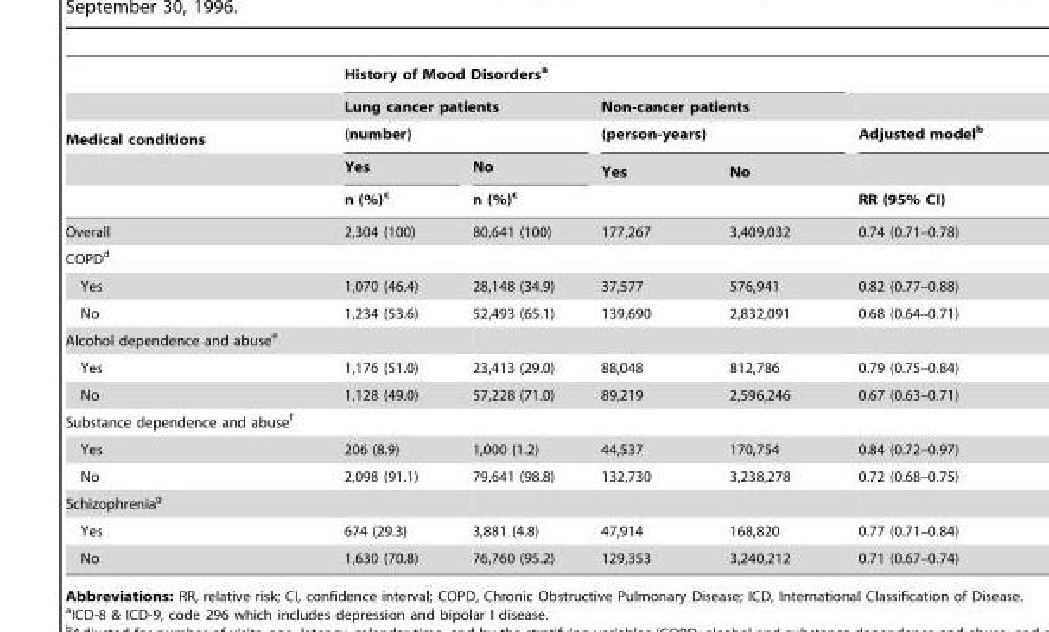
<table><thead><tr><td rowspan="5">Medical conditions</td><td colspan="4">History of Mood Disorders<sup>a</sup></td><td rowspan="5">Adjusted model<sup>b</sup> RR (95% CI)</td></tr><tr><td rowspan="2" colspan="2">Lung cancer patients (number)</td><td rowspan="2" colspan="2">Non-cancer patients (person-years)</td></tr><tr></tr><tr><td rowspan="2">Yes n (%)c</td><td rowspan="2">No n (%)c</td><td rowspan="2">Yes</td><td rowspan="2">No</td></tr><tr></tr></thead><tbody><tr><td>Overall</td><td>2,304 (100)</td><td>80,641 (100)</td><td>177,267</td><td>3,409,032</td><td>0.74 (0.71–0.78)</td></tr><tr><td colspan="6">COPD<sup>d</sup></td></tr><tr><td>Yes</td><td>1,070 (46.4)</td><td>28,148 (34.9)</td><td>37,577</td><td>576,941</td><td>0.82 (0.77–0.88)</td></tr><tr><td>No</td><td>1,234 (53.6)</td><td>52,493 (65.1)</td><td>139,690</td><td>2,832,091</td><td>0.68 (0.64–0.71)</td></tr><tr><td colspan="6">Alcohol dependence and abuse<sup>e</sup></td></tr><tr><td>Yes</td><td>1,176 (51.0)</td><td>23,413 (29.0)</td><td>88,048</td><td>812,786</td><td>0.79 (0.75–0.84)</td></tr><tr><td>No</td><td>1,128 (49.0)</td><td>57,228 (71.0)</td><td>89,219</td><td>2,596,246</td><td>0.67 (0.63–0.71)</td></tr><tr><td colspan="6">Substance dependence and abuse<sup>f</sup></td></tr><tr><td>Yes</td><td>206 (8.9)</td><td>1,000 (1.2)</td><td>44,537</td><td>170,754</td><td>0.84 (0.72–0.97)</td></tr><tr><td>No</td><td>2,098 (91.1)</td><td>79,641 (98.8)</td><td>132,730</td><td>3,238,278</td><td>0.72 (0.68–0.75)</td></tr><tr><td colspan="6">Schizophrenia<sup>g</sup></td></tr><tr><td>Yes</td><td>674 (29.3)</td><td>3,881 (4.8)</td><td>47,914</td><td>168,820</td><td>0.77 (0.71–0.84)</td></tr><tr><td>No</td><td>1,630 (70.8)</td><td>76,760 (95.2)</td><td>129,353</td><td>3,240,212</td><td>0.71 (0.67–0.74)</td></tr></tbody></table>